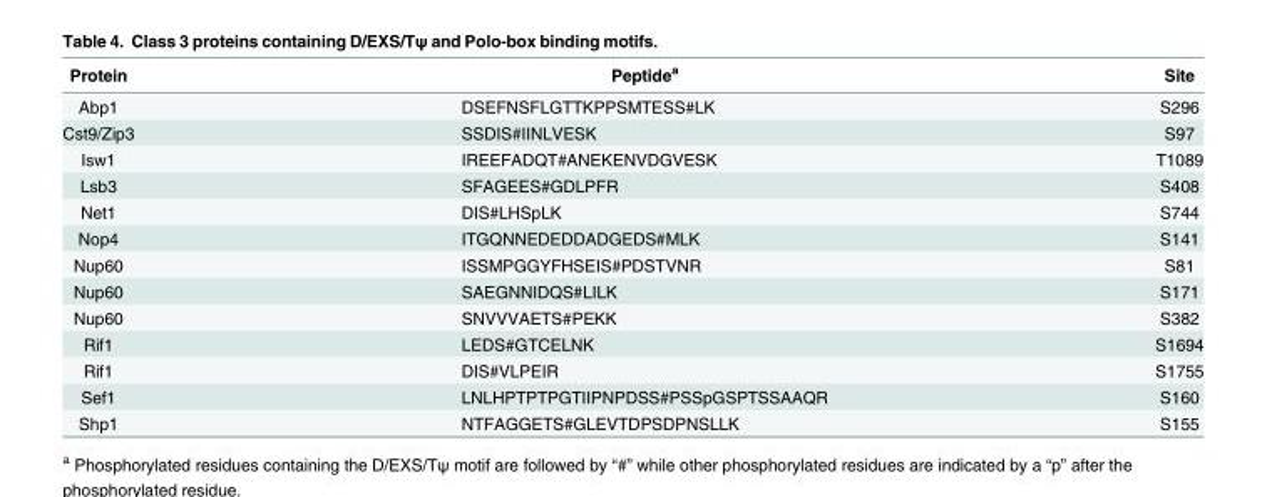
<table><thead><tr><td>Protein</td><td>Peptide<sup>a</sup></td><td>Site</td></tr></thead><tbody><tr><td>Abp1</td><td>DSEFNSFLGTTKPPSMTESS#LK</td><td>S296</td></tr><tr><td>Cst9/Zip3</td><td>SSDIS#IINLVESK</td><td>S97</td></tr><tr><td>Isw1</td><td>IREEFADQT#ANEKENVDGVESK</td><td>T1089</td></tr><tr><td>Lsb3</td><td>SFAGEES#GDLPFR</td><td>S408</td></tr><tr><td>Net1</td><td>DIS#LHSpLK</td><td>S744</td></tr><tr><td>Nop4</td><td>ITGQNNEDEDDADGEDS#MLK</td><td>S141</td></tr><tr><td>Nup60</td><td>ISSMPGGYFHSEIS#PDSTVNR</td><td>S81</td></tr><tr><td>Nup60</td><td>SAEGNNIDQS#LILK</td><td>S171</td></tr><tr><td>Nup60</td><td>SNVVVAETS#PEKK</td><td>S382</td></tr><tr><td>Rif1</td><td>LEDS#GTCELNK</td><td>S1694</td></tr><tr><td>Rif1</td><td>DIS#VLPEIR</td><td>S1755</td></tr><tr><td>Sef1</td><td>LNLHPTPTPGTIIPNPDSS#PSSpGSPTSSAAQR</td><td>S160</td></tr><tr><td>Shp1</td><td>NTFAGGETS#GLEVTDPSDPNSLLK</td><td>S155</td></tr></tbody></table>